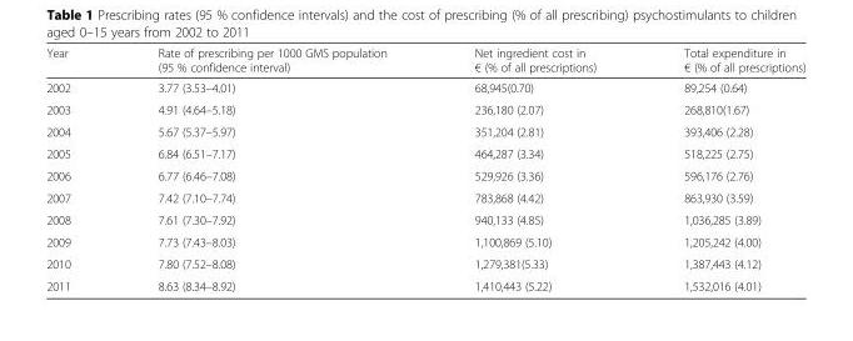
<table><thead><tr><td>Year</td><td>Rate of prescribing per 1000 GMS population (95 % confidence interval)</td><td>Net ingredient cost in € (% of all prescriptions)</td><td>Total expenditure in € (% of all prescriptions)</td></tr></thead><tbody><tr><td>2002</td><td>3.77 (3.53–4.01)</td><td>68,945(0.70)</td><td>89,254 (0.64)</td></tr><tr><td>2003</td><td>4.91 (4.64–5.18)</td><td>236,180 (2.07)</td><td>268,810(1.67)</td></tr><tr><td>2004</td><td>5.67 (5.37–5.97)</td><td>351,204 (2.81)</td><td>393,406 (2.28)</td></tr><tr><td>2005</td><td>6.84 (6.51–7.17)</td><td>464,287 (3.34)</td><td>518,225 (2.75)</td></tr><tr><td>2006</td><td>6.77 (6.46–7.08)</td><td>529,926 (3.36)</td><td>596,176 (2.76)</td></tr><tr><td>2007</td><td>7.42 (7.10–7.74)</td><td>783,868 (4.42)</td><td>863,930 (3.59)</td></tr><tr><td>2008</td><td>7.61 (7.30–7.92)</td><td>940,133 (4.85)</td><td>1,036,285 (3.89)</td></tr><tr><td>2009</td><td>7.73 (7.43–8.03)</td><td>1,100,869 (5.10)</td><td>1,205,242 (4.00)</td></tr><tr><td>2010</td><td>7.80 (7.52–8.08)</td><td>1,279,381(5.33)</td><td>1,387,443 (4.12)</td></tr><tr><td>2011</td><td>8.63 (8.34–8.92)</td><td>1,410,443 (5.22)</td><td>1,532,016 (4.01)</td></tr></tbody></table>